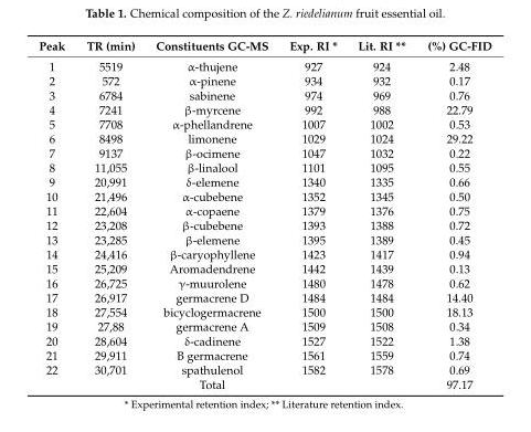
<table><thead><tr><td>Peak</td><td>TR (min)</td><td>Constituents GC-MS</td><td>Exp. RI *</td><td>Lit. RI **</td><td>(%) GC-FID</td></tr></thead><tbody><tr><td>1</td><td>5519</td><td>α-thujene</td><td>927</td><td>924</td><td>2.48</td></tr><tr><td>2</td><td>572</td><td>α-pinene</td><td>934</td><td>932</td><td>0.17</td></tr><tr><td>3</td><td>6784</td><td>sabinene</td><td>974</td><td>969</td><td>0.76</td></tr><tr><td>4</td><td>7241</td><td>β-myrcene</td><td>992</td><td>988</td><td>22.79</td></tr><tr><td>5</td><td>7708</td><td>α-phellandrene</td><td>1007</td><td>1002</td><td>0.53</td></tr><tr><td>6</td><td>8498</td><td>limonene</td><td>1029</td><td>1024</td><td>29.22</td></tr><tr><td>7</td><td>9137</td><td>β-ocimene</td><td>1047</td><td>1032</td><td>0.22</td></tr><tr><td>8</td><td>11,055</td><td>β-linalool</td><td>1101</td><td>1095</td><td>0.55</td></tr><tr><td>9</td><td>20,991</td><td>δ-elemene</td><td>1340</td><td>1335</td><td>0.66</td></tr><tr><td>10</td><td>21,496</td><td>α-cubebene</td><td>1352</td><td>1345</td><td>0.50</td></tr><tr><td>11</td><td>22,604</td><td>α-copaene</td><td>1379</td><td>1376</td><td>0.75</td></tr><tr><td>12</td><td>23,208</td><td>β-cubebene</td><td>1393</td><td>1388</td><td>0.72</td></tr><tr><td>13</td><td>23,285</td><td>β-elemene</td><td>1395</td><td>1389</td><td>0.45</td></tr><tr><td>14</td><td>24,416</td><td>β-caryophyllene</td><td>1423</td><td>1417</td><td>0.94</td></tr><tr><td>15</td><td>25,209</td><td>Aromadendrene</td><td>1442</td><td>1439</td><td>0.13</td></tr><tr><td>16</td><td>26,725</td><td>γ-muurolene</td><td>1480</td><td>1478</td><td>0.62</td></tr><tr><td>17</td><td>26,917</td><td>germacrene D</td><td>1484</td><td>1484</td><td>14.40</td></tr><tr><td>18</td><td>27,554</td><td>bicyclogermacrene</td><td>1500</td><td>1500</td><td>18.13</td></tr><tr><td>19</td><td>27,88</td><td>germacrene A</td><td>1509</td><td>1508</td><td>0.34</td></tr><tr><td>20</td><td>28,604</td><td>δ-cadinene</td><td>1527</td><td>1522</td><td>1.38</td></tr><tr><td>21</td><td>29,911</td><td>B germacrene</td><td>1561</td><td>1559</td><td>0.74</td></tr><tr><td rowspan="2">22</td><td>30,701</td><td>spathulenol</td><td>1582</td><td>1578</td><td>0.69</td></tr><tr><td></td><td>Total</td><td></td><td></td><td>97.17</td></tr></tbody></table>